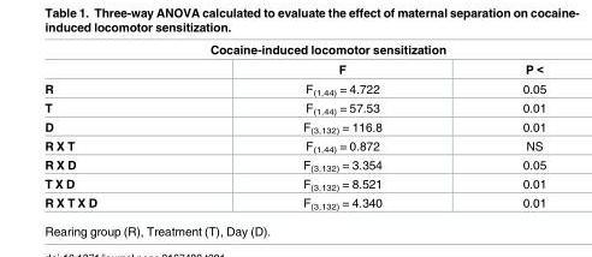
<table><thead><tr><td colspan="3">Cocaine-induced locomotor sensitization</td></tr><tr><td></td><td>F</td><td>P &lt;</td></tr></thead><tbody><tr><td>R</td><td>F<sub>(1,44)</sub> = 4.722</td><td>0.05</td></tr><tr><td>T</td><td>F<sub>(1,44)</sub> = 57.53</td><td>0.01</td></tr><tr><td>D</td><td>F<sub>(3,132)</sub> = 116.8</td><td>0.01</td></tr><tr><td>R X T</td><td>F<sub>(1,44)</sub> = 0.872</td><td>NS</td></tr><tr><td>R X D</td><td>F<sub>(3,132)</sub> = 3.354</td><td>0.05</td></tr><tr><td>T X D</td><td>F<sub>(3,132)</sub> = 8.521</td><td>0.01</td></tr><tr><td>R X T X D</td><td>F<sub>(3,132)</sub> = 4.340</td><td>0.01</td></tr></tbody></table>